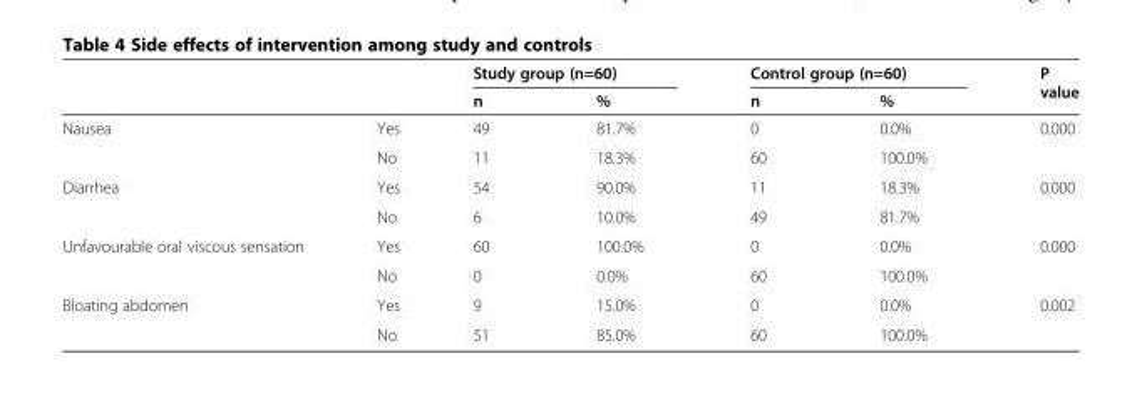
<table><thead><tr><td rowspan="2"></td><td rowspan="2"></td><td colspan="2">Study group (n=60)</td><td colspan="2">Control group (n=60)</td><td rowspan="2">P value</td></tr><tr><td>n</td><td>%</td><td>n</td><td>%</td></tr></thead><tbody><tr><td rowspan="2">Nausea</td><td>Yes</td><td>49</td><td>81.7%</td><td>0</td><td>0.0%</td><td rowspan="2">0.000</td></tr><tr><td>No</td><td>11</td><td>18.3%</td><td>60</td><td>100.0%</td></tr><tr><td rowspan="2">Diarrhea</td><td>Yes</td><td>54</td><td>90.0%</td><td>11</td><td>18.3%</td><td>0.000</td></tr><tr><td>No</td><td>6</td><td>10.0%</td><td>49</td><td>81.7%</td><td></td></tr><tr><td rowspan="2">Unfavourable oral viscous sensation</td><td>Yes</td><td>60</td><td>100.0%</td><td>0</td><td>0.0%</td><td>0.000</td></tr><tr><td>No</td><td>0</td><td>0.0%</td><td>60</td><td>100.0%</td><td></td></tr><tr><td rowspan="2">Bloating abdomen</td><td>Yes</td><td>9</td><td>15.0%</td><td>0</td><td>0.0%</td><td>0.002</td></tr><tr><td>No</td><td>51</td><td>85.0%</td><td>60</td><td>100.0%</td><td></td></tr></tbody></table>